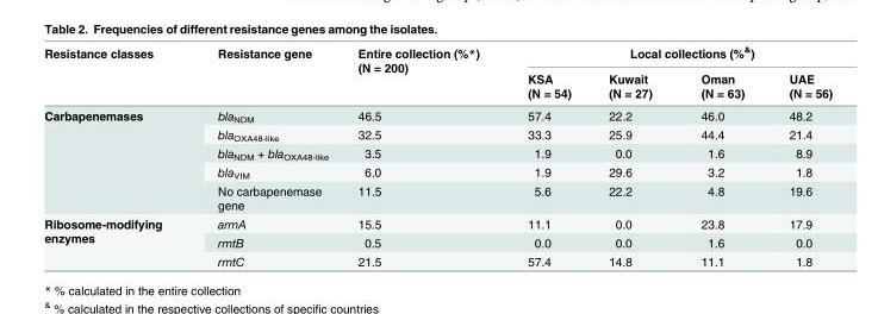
<table><thead><tr><td rowspan="2">Resistance classes</td><td rowspan="2">Resistance gene</td><td rowspan="2">Entire collection (%*) (N = 200)</td><td colspan="4">Local collections (%<sup>&amp;</sup>)</td></tr><tr><td>KSA (N = 54)</td><td>Kuwait (N = 27)</td><td>Oman (N = 63)</td><td>UAE (N = 56)</td></tr></thead><tbody><tr><td rowspan="5">Carbapenemases</td><td>bla<sub>NDM</sub></td><td>46.5</td><td>57.4</td><td>22.2</td><td>46.0</td><td>48.2</td></tr><tr><td>bla<sub>OXA48-like</sub></td><td>32.5</td><td>33.3</td><td>25.9</td><td>44.4</td><td>21.4</td></tr><tr><td>bla<sub>NDM</sub> + bla<sub>OXA48-like</sub></td><td>3.5</td><td>1.9</td><td>0.0</td><td>1.6</td><td>8.9</td></tr><tr><td>bla<sub>VIM</sub></td><td>6.0</td><td>1.9</td><td>29.6</td><td>3.2</td><td>1.8</td></tr><tr><td>No carbapenemase gene</td><td>11.5</td><td>5.6</td><td>22.2</td><td>4.8</td><td>19.6</td></tr><tr><td rowspan="3">Ribosome-modifying enzymes</td><td>armA</td><td>15.5</td><td>11.1</td><td>0.0</td><td>23.8</td><td>17.9</td></tr><tr><td>rmtB</td><td>0.5</td><td>0.0</td><td>0.0</td><td>1.6</td><td>0.0</td></tr><tr><td>rmtC</td><td>21.5</td><td>57.4</td><td>14.8</td><td>11.1</td><td>1.8</td></tr></tbody></table>